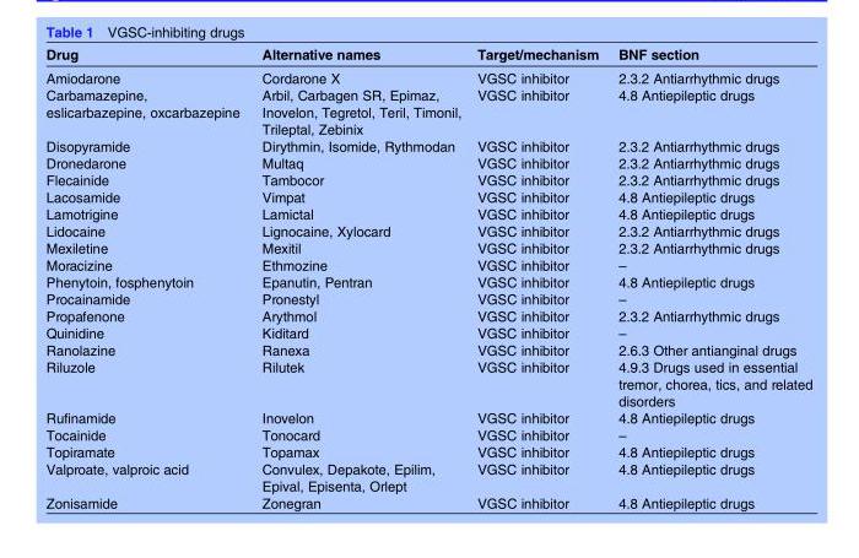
<table><thead><tr><td>Drug</td><td>Alternative names</td><td>Target/mechanism</td><td>BNF section</td></tr></thead><tbody><tr><td>Amiodarone</td><td>Cordarone X</td><td>VGSC inhibitor</td><td>2.3.2 Antiarrhythmic drugs</td></tr><tr><td>Carbamazepine, eslicarbazepine, oxcarbazepine</td><td>Arbil, Carbagen SR, Epimaz, Inovelon, Tegretol, Teril, Timonil, Trileptal, Zebinix</td><td>VGSC inhibitor</td><td>4.8 Antiepileptic drugs</td></tr><tr><td>Disopyramide</td><td>Dirythmin, Isomide, Rythmodan</td><td>VGSC inhibitor</td><td>2.3.2 Antiarrhythmic drugs</td></tr><tr><td>Dronedarone</td><td>Multaq</td><td>VGSC inhibitor</td><td>2.3.2 Antiarrhythmic drugs</td></tr><tr><td>Flecainide</td><td>Tambocor</td><td>VGSC inhibitor</td><td>2.3.2 Antiarrhythmic drugs</td></tr><tr><td>Lacosamide</td><td>Vimpat</td><td>VGSC inhibitor</td><td>4.8 Antiepileptic drugs</td></tr><tr><td>Lamotrigine</td><td>Lamictal</td><td>VGSC inhibitor</td><td>4.8 Antiepileptic drugs</td></tr><tr><td>Lidocaine</td><td>Lignocaine, Xylocard</td><td>VGSC inhibitor</td><td>2.3.2 Antiarrhythmic drugs</td></tr><tr><td>Mexiletine</td><td>Mexitil</td><td>VGSC inhibitor</td><td>2.3.2 Antiarrhythmic drugs</td></tr><tr><td>Moracizine</td><td>Ethmozine</td><td>VGSC inhibitor</td><td>–</td></tr><tr><td>Phenytoin, fosphenytoin</td><td>Epanutin, Pentran</td><td>VGSC inhibitor</td><td>4.8 Antiepileptic drugs</td></tr><tr><td>Procainamide</td><td>Pronestyl</td><td>VGSC inhibitor</td><td>–</td></tr><tr><td>Propafenone</td><td>Arythmol</td><td>VGSC inhibitor</td><td>2.3.2 Antiarrhythmic drugs</td></tr><tr><td>Quinidine</td><td>Kiditard</td><td>VGSC inhibitor</td><td>–</td></tr><tr><td>Ranolazine</td><td>Ranexa</td><td>VGSC inhibitor</td><td>2.6.3 Other antianginal drugs</td></tr><tr><td>Riluzole</td><td>Rilutek</td><td>VGSC inhibitor</td><td>4.9.3 Drugs used in essential tremor, chorea, tics, and related disorders</td></tr><tr><td>Rufinamide</td><td>Inovelon</td><td>VGSC inhibitor</td><td>4.8 Antiepileptic drugs</td></tr><tr><td>Tocainide</td><td>Tonocard</td><td>VGSC inhibitor</td><td>–</td></tr><tr><td>Topiramate</td><td>Topamax</td><td>VGSC inhibitor</td><td>4.8 Antiepileptic drugs</td></tr><tr><td>Valproate, valproic acid</td><td>Convulex, Depakote, Epilim, Epival, Episenta, Orlept</td><td>VGSC inhibitor</td><td>4.8 Antiepileptic drugs</td></tr><tr><td>Zonisamide</td><td>Zonegran</td><td>VGSC inhibitor</td><td>4.8 Antiepileptic drugs</td></tr></tbody></table>